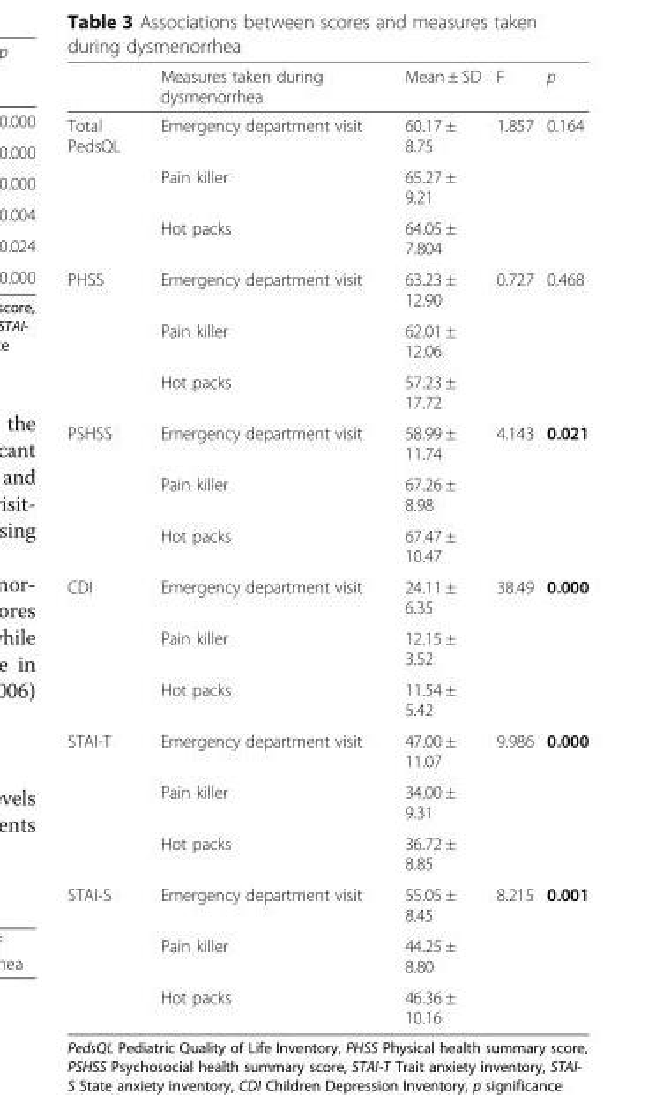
<table><thead><tr><td></td><td>Measures taken during dysmenorrhea</td><td>Mean ± SD</td><td>F</td><td>p</td></tr></thead><tbody><tr><td rowspan="3">Total PedsQL</td><td>Emergency department visit</td><td>60.17 ± 8.75</td><td rowspan="3">1.857</td><td rowspan="3">0.164</td></tr><tr><td>Pain killer</td><td>65.27 ± 9.21</td></tr><tr><td>Hot packs</td><td>64.05 ± 7.804</td></tr><tr><td rowspan="3">PHSS</td><td>Emergency department visit</td><td>63.23 ± 12.90</td><td rowspan="3">0.727</td><td rowspan="3">0.468</td></tr><tr><td>Pain killer</td><td>62.01 ± 12.06</td></tr><tr><td>Hot packs</td><td>57.23 ± 17.72</td></tr><tr><td rowspan="3">PSHSS</td><td>Emergency department visit</td><td>58.99 ± 11.74</td><td rowspan="3">4.143</td><td rowspan="3">0.021</td></tr><tr><td>Pain killer</td><td>67.26 ± 8.98</td></tr><tr><td>Hot packs</td><td>67.47 ± 10.47</td></tr><tr><td rowspan="3">CDI</td><td>Emergency department visit</td><td>24.11 ± 6.35</td><td rowspan="3">38.49</td><td rowspan="3">0.000</td></tr><tr><td>Pain killer</td><td>12.15 ± 3.52</td></tr><tr><td>Hot packs</td><td>11.54 ± 5.42</td></tr><tr><td rowspan="3">STAI-T</td><td>Emergency department visit</td><td>47.00 ± 11.07</td><td rowspan="3">9.986</td><td rowspan="3">0.000</td></tr><tr><td>Pain killer</td><td>34.00 ± 9.31</td></tr><tr><td>Hot packs</td><td>36.72 ± 8.85</td></tr><tr><td rowspan="3">STAI-S</td><td>Emergency department visit</td><td>55.05 ± 8.45</td><td rowspan="3">8.215</td><td rowspan="3">0.001</td></tr><tr><td>Pain killer</td><td>44.25 ± 8.80</td></tr><tr><td>Hot packs</td><td>46.36 ± 10.16</td></tr></tbody></table>